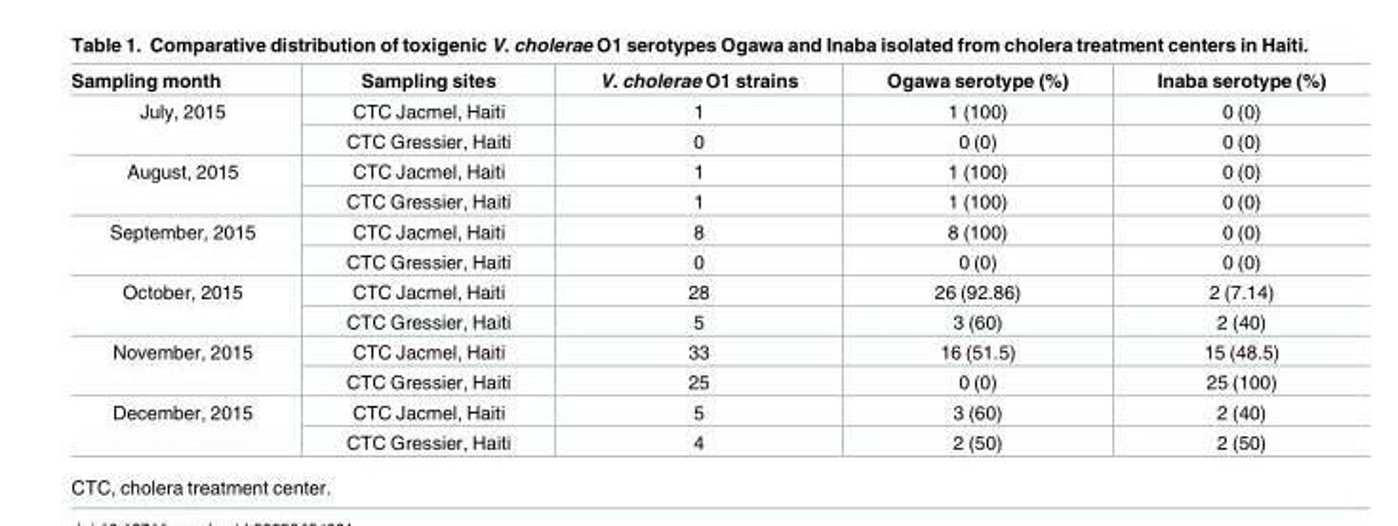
<table><thead><tr><td>Sampling month</td><td>Sampling sites</td><td>V. cholerae O1 strains</td><td>Ogawa serotype (%)</td><td>Inaba serotype (%)</td></tr></thead><tbody><tr><td rowspan="2">July, 2015</td><td>CTC Jacmel, Haiti</td><td>1</td><td>1 (100)</td><td>0 (0)</td></tr><tr><td>CTC Gressier, Haiti</td><td>0</td><td>0 (0)</td><td>0 (0)</td></tr><tr><td rowspan="2">August, 2015</td><td>CTC Jacmel, Haiti</td><td>1</td><td>1 (100)</td><td>0 (0)</td></tr><tr><td>CTC Gressier, Haiti</td><td>1</td><td>1 (100)</td><td>0 (0)</td></tr><tr><td rowspan="2">September, 2015</td><td>CTC Jacmel, Haiti</td><td>8</td><td>8 (100)</td><td>0 (0)</td></tr><tr><td>CTC Gressier, Haiti</td><td>0</td><td>0 (0)</td><td>0 (0)</td></tr><tr><td rowspan="2">October, 2015</td><td>CTC Jacmel, Haiti</td><td>28</td><td>26 (92.86)</td><td>2 (7.14)</td></tr><tr><td>CTC Gressier, Haiti</td><td>5</td><td>3 (60)</td><td>2 (40)</td></tr><tr><td rowspan="2">November, 2015</td><td>CTC Jacmel, Haiti</td><td>33</td><td>16 (51.5)</td><td>15 (48.5)</td></tr><tr><td>CTC Gressier, Haiti</td><td>25</td><td>0 (0)</td><td>25 (100)</td></tr><tr><td rowspan="2">December, 2015</td><td>CTC Jacmel, Haiti</td><td>5</td><td>3 (60)</td><td>2 (40)</td></tr><tr><td>CTC Gressier, Haiti</td><td>4</td><td>2 (50)</td><td>2 (50)</td></tr></tbody></table>